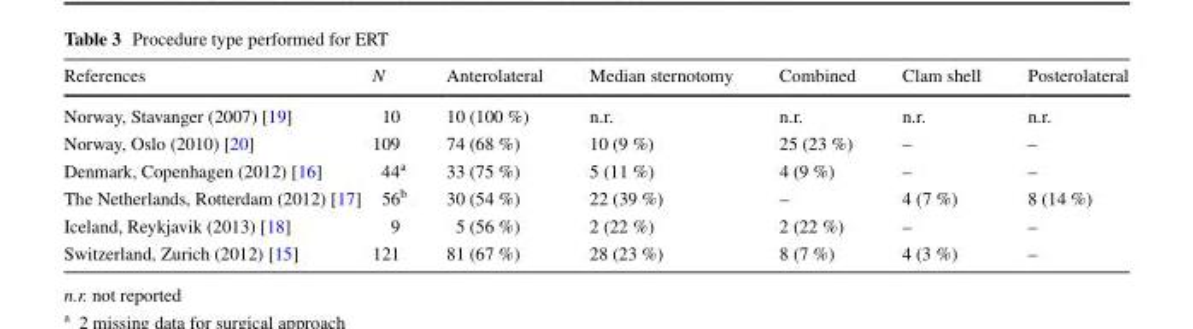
<table><thead><tr><td>References</td><td>N</td><td>Anterolateral</td><td>Median sternotomy</td><td>Combined</td><td>Clam shell</td><td>Posterolateral</td></tr></thead><tbody><tr><td>Norway, Stavanger (2007) [19]</td><td>10</td><td>10 (100 %)</td><td>n.r.</td><td>n.r.</td><td>n.r.</td><td>n.r.</td></tr><tr><td>Norway, Oslo (2010) [20]</td><td>109</td><td>74 (68 %)</td><td>10 (9 %)</td><td>25 (23 %)</td><td>–</td><td>–</td></tr><tr><td>Denmark, Copenhagen (2012) [16]</td><td>44<sup>a</sup></td><td>33 (75 %)</td><td>5 (11 %)</td><td>4 (9 %)</td><td>–</td><td>–</td></tr><tr><td>The Netherlands, Rotterdam (2012) [17]</td><td>56<sup>b</sup></td><td>30 (54 %)</td><td>22 (39 %)</td><td>–</td><td>4 (7 %)</td><td>8 (14 %)</td></tr><tr><td>Iceland, Reykjavik (2013) [18]</td><td>9</td><td>5 (56 %)</td><td>2 (22 %)</td><td>2 (22 %)</td><td>–</td><td>–</td></tr><tr><td>Switzerland, Zurich (2012) [15]</td><td>121</td><td>81 (67 %)</td><td>28 (23 %)</td><td>8 (7 %)</td><td>4 (3 %)</td><td>–</td></tr></tbody></table>